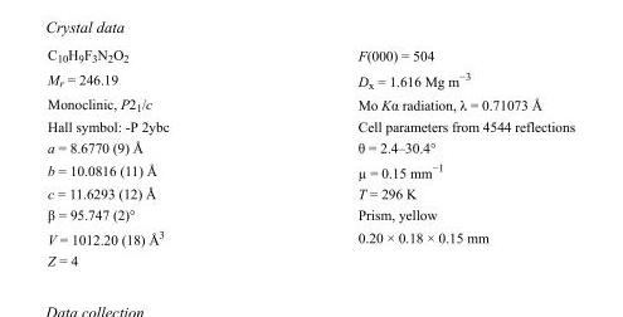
<table><tbody><tr><td>C<sub>10</sub>H<sub>9</sub>F<sub>3</sub>N<sub>2</sub>O<sub>2</sub></td><td>F(000) = 504</td></tr><tr><td>M<sub>r</sub> = 246.19</td><td>D<sub>x</sub> = 1.616 Mg m<sup>−3</sup></td></tr><tr><td>Monoclinic, P2<sub>1</sub>/c</td><td>Mo Kα radiation, λ = 0.71073 Å</td></tr><tr><td>Hall symbol: -P 2ybc</td><td>Cell parameters from 4544 reflections</td></tr><tr><td>a = 8.6770 (9) Å</td><td>θ = 2.4–30.4°</td></tr><tr><td>b = 10.0816 (11) Å</td><td>µ = 0.15 mm<sup>−1</sup></td></tr><tr><td>c = 11.6293 (12) Å</td><td>T = 296 K</td></tr><tr><td>β = 95.747 (2)°</td><td>Prism, yellow</td></tr><tr><td>V = 1012.20 (18) Å<sup>3</sup></td><td>0.20 × 0.18 × 0.15 mm</td></tr><tr><td>Z = 4</td><td></td></tr></tbody></table>